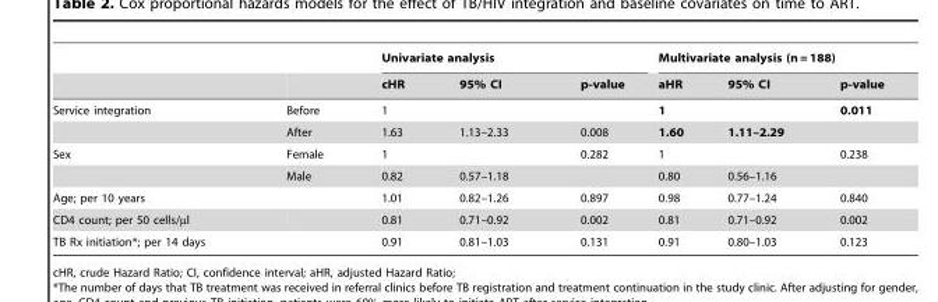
<table><thead><tr><td rowspan="2"></td><td rowspan="2"></td><td colspan="3">Univariate analysis</td><td colspan="3">Multivariate analysis (n = 188)</td></tr><tr><td>cHR</td><td>95% CI</td><td>p-value</td><td>aHR</td><td>95% CI</td><td>p-value</td></tr></thead><tbody><tr><td rowspan="2">Service integration</td><td>Before</td><td>1</td><td></td><td></td><td>1</td><td></td><td>0.011</td></tr><tr><td>After</td><td>1.63</td><td>1.13–2.33</td><td>0.008</td><td>1.60</td><td>1.11–2.29</td><td></td></tr><tr><td rowspan="2">Sex</td><td>Female</td><td>1</td><td></td><td>0.282</td><td>1</td><td></td><td>0.238</td></tr><tr><td>Male</td><td>0.82</td><td>0.57–1.18</td><td></td><td>0.80</td><td>0.56–1.16</td><td></td></tr><tr><td>Age; per 10 years</td><td></td><td>1.01</td><td>0.82–1.26</td><td>0.897</td><td>0.98</td><td>0.77–1.24</td><td>0.840</td></tr><tr><td>CD4 count; per 50 cells/µl</td><td></td><td>0.81</td><td>0.71–0.92</td><td>0.002</td><td>0.81</td><td>0.71–0.92</td><td>0.002</td></tr><tr><td colspan="2">TB Rx initiation*; per 14 days</td><td>0.91</td><td>0.81–1.03</td><td>0.131</td><td>0.91</td><td>0.80–1.03</td><td>0.123</td></tr></tbody></table>